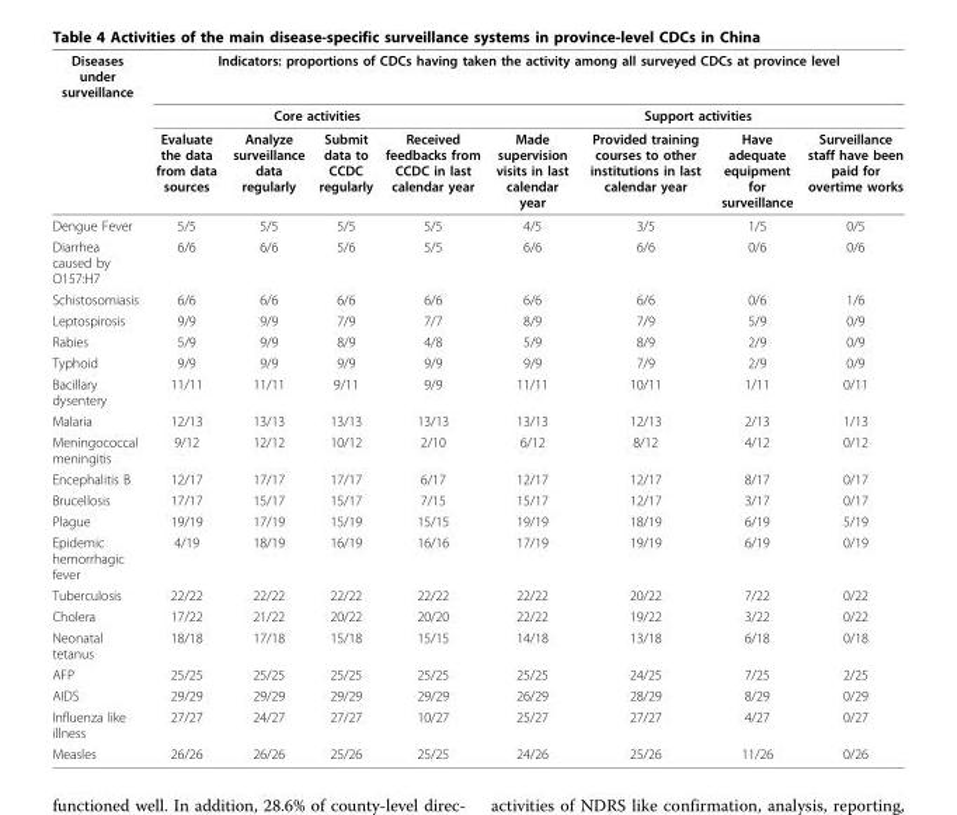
<table><thead><tr><td rowspan="3">Diseases under surveillance</td><td colspan="8">Indicators: proportions of CDCs having taken the activity among all surveyed CDCs at province level</td></tr><tr><td colspan="4">Core activities</td><td colspan="4">Support activities</td></tr><tr><td>Evaluate the data from data sources</td><td>Analyze surveillance data regularly</td><td>Submit data to CCDC regularly</td><td>Received feedbacks from CCDC in last calendar year</td><td>Made supervision visits in last calendar year</td><td>Provided training courses to other institutions in last calendar year</td><td>Have adequate equipment for surveillance</td><td>Surveillance staff have been paid for overtime works</td></tr></thead><tbody><tr><td>Dengue Fever</td><td>5/5</td><td>5/5</td><td>5/5</td><td>5/5</td><td>4/5</td><td>3/5</td><td>1/5</td><td>0/5</td></tr><tr><td>Diarrhea caused by O157:H7</td><td>6/6</td><td>6/6</td><td>5/6</td><td>5/5</td><td>6/6</td><td>6/6</td><td>0/6</td><td>0/6</td></tr><tr><td>Schistosomiasis</td><td>6/6</td><td>6/6</td><td>6/6</td><td>6/6</td><td>6/6</td><td>6/6</td><td>0/6</td><td>1/6</td></tr><tr><td>Leptospirosis</td><td>9/9</td><td>9/9</td><td>7/9</td><td>7/7</td><td>8/9</td><td>7/9</td><td>5/9</td><td>0/9</td></tr><tr><td>Rabies</td><td>5/9</td><td>9/9</td><td>8/9</td><td>4/8</td><td>5/9</td><td>8/9</td><td>2/9</td><td>0/9</td></tr><tr><td>Typhoid</td><td>9/9</td><td>9/9</td><td>9/9</td><td>9/9</td><td>9/9</td><td>7/9</td><td>2/9</td><td>0/9</td></tr><tr><td>Bacillary dysentery</td><td>11/11</td><td>11/11</td><td>9/11</td><td>9/9</td><td>11/11</td><td>10/11</td><td>1/11</td><td>0/11</td></tr><tr><td>Malaria</td><td>12/13</td><td>13/13</td><td>13/13</td><td>13/13</td><td>13/13</td><td>12/13</td><td>2/13</td><td>1/13</td></tr><tr><td>Meningococcal meningitis</td><td>9/12</td><td>12/12</td><td>10/12</td><td>2/10</td><td>6/12</td><td>8/12</td><td>4/12</td><td>0/12</td></tr><tr><td>Encephalitis B</td><td>12/17</td><td>17/17</td><td>17/17</td><td>6/17</td><td>12/17</td><td>12/17</td><td>8/17</td><td>0/17</td></tr><tr><td>Brucellosis</td><td>17/17</td><td>15/17</td><td>15/17</td><td>7/15</td><td>15/17</td><td>12/17</td><td>3/17</td><td>0/17</td></tr><tr><td>Plague</td><td>19/19</td><td>17/19</td><td>15/19</td><td>15/15</td><td>19/19</td><td>18/19</td><td>6/19</td><td>5/19</td></tr><tr><td>Epidemic hemorrhagic fever</td><td>4/19</td><td>18/19</td><td>16/19</td><td>16/16</td><td>17/19</td><td>19/19</td><td>6/19</td><td>0/19</td></tr><tr><td>Tuberculosis</td><td>22/22</td><td>22/22</td><td>22/22</td><td>22/22</td><td>22/22</td><td>20/22</td><td>7/22</td><td>0/22</td></tr><tr><td>Cholera</td><td>17/22</td><td>21/22</td><td>20/22</td><td>20/20</td><td>22/22</td><td>19/22</td><td>3/22</td><td>0/22</td></tr><tr><td>Neonatal tetanus</td><td>18/18</td><td>17/18</td><td>15/18</td><td>15/15</td><td>14/18</td><td>13/18</td><td>6/18</td><td>0/18</td></tr><tr><td>AFP</td><td>25/25</td><td>25/25</td><td>25/25</td><td>25/25</td><td>25/25</td><td>24/25</td><td>7/25</td><td>2/25</td></tr><tr><td>AIDS</td><td>29/29</td><td>29/29</td><td>29/29</td><td>29/29</td><td>26/29</td><td>28/29</td><td>8/29</td><td>0/29</td></tr><tr><td>Influenza like illness</td><td>27/27</td><td>24/27</td><td>27/27</td><td>10/27</td><td>25/27</td><td>27/27</td><td>4/27</td><td>0/27</td></tr><tr><td>Measles</td><td>26/26</td><td>26/26</td><td>25/26</td><td>25/25</td><td>24/26</td><td>25/26</td><td>11/26</td><td>0/26</td></tr></tbody></table>